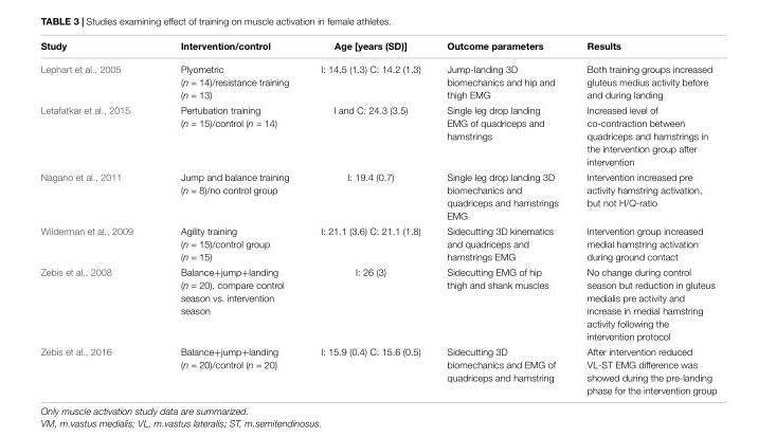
<table><thead><tr><td>Study</td><td>Intervention/control</td><td>Age [years (SD)]</td><td>Outcome parameters</td><td>Results</td></tr></thead><tbody><tr><td>Lephart et al., 2005</td><td>Plyometric (n = 14)/resistance training (n = 13)</td><td>I: 14.5 (1.3) C: 14.2 (1.3)</td><td>Jump-landing 3D biomechanics and hip and thigh EMG</td><td>Both training groups increased gluteus medius activity before and during landing</td></tr><tr><td>Letafatkar et al., 2015</td><td>Pertubation training (n = 15)/control (n = 14)</td><td>I and C: 24.3 (3.5)</td><td>Single leg drop landing EMG of quadriceps and hamstrings</td><td>Increased level of co-contraction between quadriceps and hamstrings in the intervention group after intervention</td></tr><tr><td>Nagano et al., 2011</td><td>Jump and balance training (n = 8)/no control group</td><td>I: 19.4 (0.7)</td><td>Single leg drop landing 3D biomechanics and quadriceps and hamstrings EMG</td><td>Intervention increased pre activity hamstring activation, but not H/Q-ratio</td></tr><tr><td>Wilderman et al., 2009</td><td>Agility training (n = 15)/control group (n = 15)</td><td>I: 21.1 (3.6) C: 21.1 (1.8)</td><td>Sidecutting 3D kinematics and quadriceps and hamstrings EMG</td><td>Intervention group increased medial hamstring activation during ground contact</td></tr><tr><td>Zebis et al., 2008</td><td>Balance+jump+landing (n = 20), compare control season vs. intervention season</td><td>I: 26 (3)</td><td>Sidecutting EMG of hip thigh and shank muscles</td><td>No change during control season but reduction in gluteus medialis pre activity and increase in medial hamstring activity following the intervention protocol</td></tr><tr><td>Zebis et al., 2016</td><td>Balance+jump+landing (n = 20)/control (n = 20)</td><td>I: 15.9 (0.4) C: 15.6 (0.5)</td><td>Sidecutting 3D biomechanics and EMG of quadriceps and hamstring</td><td>After intervention reduced VL-ST EMG difference was showed during the pre-landing phase for the intervention group</td></tr></tbody></table>